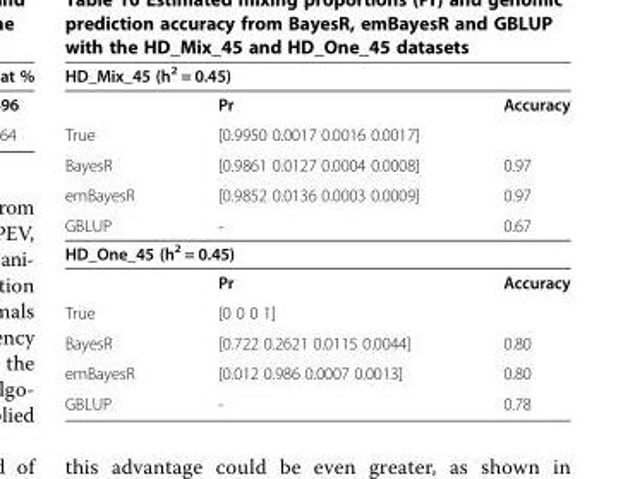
<table><thead><tr><td colspan="3">HD_Mix_45 (h<sup>2</sup> = 0.45)</td></tr><tr><td></td><td>Pr</td><td>Accuracy</td></tr></thead><tbody><tr><td>True</td><td>[0.9950 0.0017 0.0016 0.0017]</td><td></td></tr><tr><td>BayesR</td><td>[0.9861 0.0127 0.0004 0.0008]</td><td>0.97</td></tr><tr><td>emBayesR</td><td>[0.9852 0.0136 0.0003 0.0009]</td><td>0.97</td></tr><tr><td>GBLUP</td><td>-</td><td>0.67</td></tr><tr><td colspan="3">HD_One_45 (h<sup>2</sup> = 0.45)</td></tr><tr><td></td><td>Pr</td><td>Accuracy</td></tr><tr><td>True</td><td>[0 0 0 1]</td><td></td></tr><tr><td>BayesR</td><td>[0.722 0.2621 0.0115 0.0044]</td><td>0.80</td></tr><tr><td>emBayesR</td><td>[0.012 0.986 0.0007 0.0013]</td><td>0.80</td></tr><tr><td>GBLUP</td><td>-</td><td>0.78</td></tr></tbody></table>